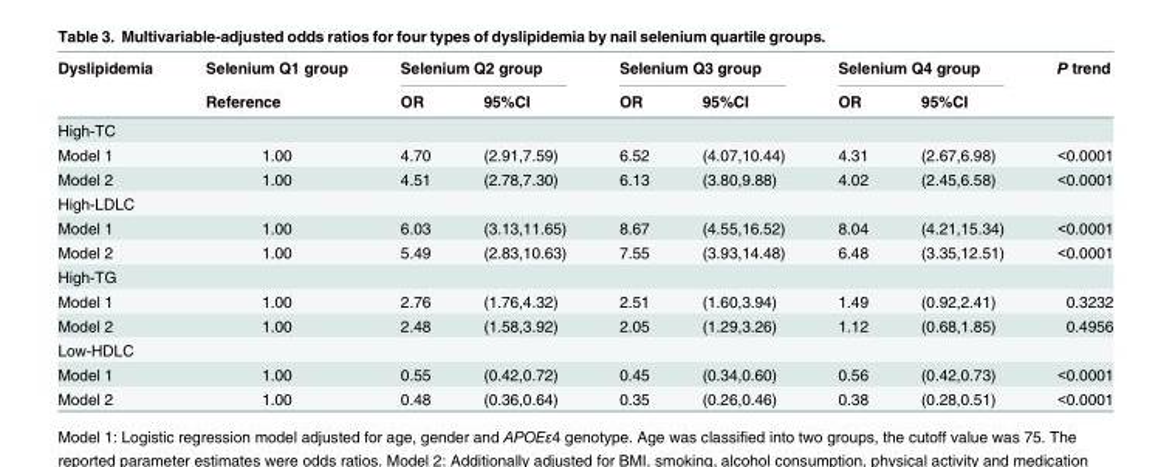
<table><thead><tr><td rowspan="2">Dyslipidemia</td><td rowspan="2">Selenium Q1 group Reference</td><td colspan="2">Selenium Q2 group</td><td colspan="2">Selenium Q3 group</td><td colspan="2">Selenium Q4 group</td><td rowspan="2">P trend</td></tr><tr><td>OR</td><td>95%CI</td><td>OR</td><td>95%CI</td><td>OR</td><td>95%CI</td></tr></thead><tbody><tr><td colspan="9">High-TC</td></tr><tr><td>Model 1</td><td>1.00</td><td>4.70</td><td>(2.91,7.59)</td><td>6.52</td><td>(4.07,10.44)</td><td>4.31</td><td>(2.67,6.98)</td><td>&lt;0.0001</td></tr><tr><td>Model 2</td><td>1.00</td><td>4.51</td><td>(2.78,7.30)</td><td>6.13</td><td>(3.80,9.88)</td><td>4.02</td><td>(2.45,6.58)</td><td>&lt;0.0001</td></tr><tr><td colspan="9">High-LDLC</td></tr><tr><td>Model 1</td><td>1.00</td><td>6.03</td><td>(3.13,11.65)</td><td>8.67</td><td>(4.55,16.52)</td><td>8.04</td><td>(4.21,15.34)</td><td>&lt;0.0001</td></tr><tr><td>Model 2</td><td>1.00</td><td>5.49</td><td>(2.83,10.63)</td><td>7.55</td><td>(3.93,14.48)</td><td>6.48</td><td>(3.35,12.51)</td><td>&lt;0.0001</td></tr><tr><td colspan="9">High-TG</td></tr><tr><td>Model 1</td><td>1.00</td><td>2.76</td><td>(1.76,4.32)</td><td>2.51</td><td>(1.60,3.94)</td><td>1.49</td><td>(0.92,2.41)</td><td>0.3232</td></tr><tr><td>Model 2</td><td>1.00</td><td>2.48</td><td>(1.58,3.92)</td><td>2.05</td><td>(1.29,3.26)</td><td>1.12</td><td>(0.68,1.85)</td><td>0.4956</td></tr><tr><td colspan="9">Low-HDLC</td></tr><tr><td>Model 1</td><td>1.00</td><td>0.55</td><td>(0.42,0.72)</td><td>0.45</td><td>(0.34,0.60)</td><td>0.56</td><td>(0.42,0.73)</td><td>&lt;0.0001</td></tr><tr><td>Model 2</td><td>1.00</td><td>0.48</td><td>(0.36,0.64)</td><td>0.35</td><td>(0.26,0.46)</td><td>0.38</td><td>(0.28,0.51)</td><td>&lt;0.0001</td></tr></tbody></table>